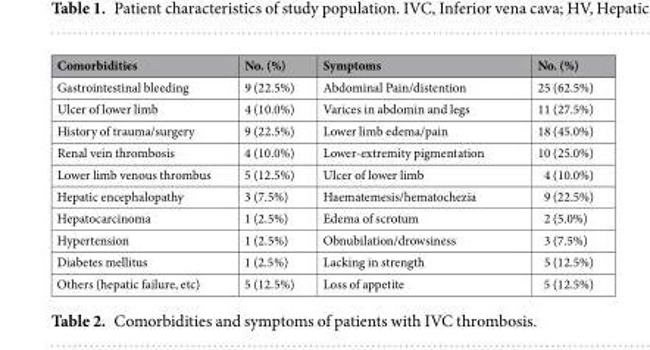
<table><thead><tr><td>Comorbidities</td><td>No. (%)</td><td>Symptoms</td><td>No. (%)</td></tr></thead><tbody><tr><td>Gastrointestinal bleeding</td><td>9 (22.5%)</td><td>Abdominal Pain/distention</td><td>25 (62.5%)</td></tr><tr><td>Ulcer of lower limb</td><td>4 (10.0%)</td><td>Varices in abdomin and legs</td><td>11 (27.5%)</td></tr><tr><td>History of trauma/surgery</td><td>9 (22.5%)</td><td>Lower limb edema/pain</td><td>18 (45.0%)</td></tr><tr><td>Renal vein thrombosis</td><td>4 (10.0%)</td><td>Lower-extremity pigmentation</td><td>10 (25.0%)</td></tr><tr><td>Lower limb venous thrombus</td><td>5 (12.5%)</td><td>Ulcer of lower limb</td><td>4 (10.0%)</td></tr><tr><td>Hepatic encephalopathy</td><td>3 (7.5%)</td><td>Haematemesis/hematochezia</td><td>9 (22.5%)</td></tr><tr><td>Hepatocarcinoma</td><td>1 (2.5%)</td><td>Edema of scrotum</td><td>2 (5.0%)</td></tr><tr><td>Hypertension</td><td>1 (2.5%)</td><td>Obnubilation/drowsiness</td><td>3 (7.5%)</td></tr><tr><td>Diabetes mellitus</td><td>1 (2.5%)</td><td>Lacking in strength</td><td>5 (12.5%)</td></tr><tr><td>Others (hepatic failure, etc)</td><td>5 (12.5%)</td><td>Loss of appetite</td><td>5 (12.5%)</td></tr></tbody></table>